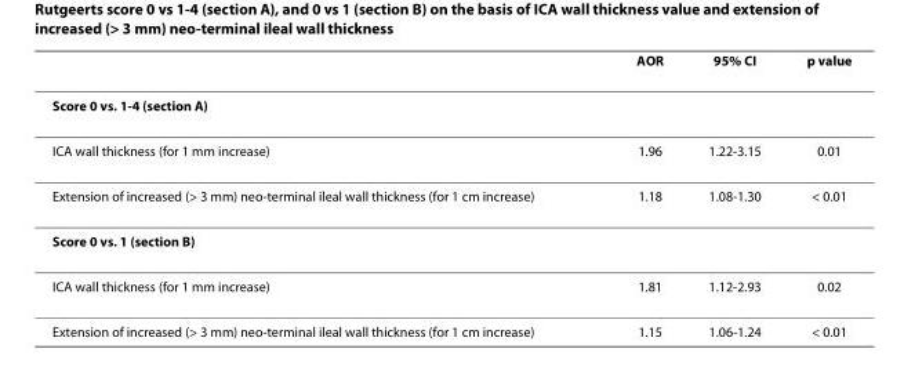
<table><thead><tr><td></td><td>AOR</td><td>95% CI</td><td>p value</td></tr></thead><tbody><tr><td colspan="4">Score 0 vs. 1-4 (section A)</td></tr><tr><td>ICA wall thickness (for 1 mm increase)</td><td>1.96</td><td>1.22-3.15</td><td>0.01</td></tr><tr><td>Extension of increased (&gt; 3 mm) neo-terminal ileal wall thickness (for 1 cm increase)</td><td>1.18</td><td>1.08-1.30</td><td>&lt; 0.01</td></tr><tr><td colspan="4">Score 0 vs. 1 (section B)</td></tr><tr><td>ICA wall thickness (for 1 mm increase)</td><td>1.81</td><td>1.12-2.93</td><td>0.02</td></tr><tr><td>Extension of increased (&gt; 3 mm) neo-terminal ileal wall thickness (for 1 cm increase)</td><td>1.15</td><td>1.06-1.24</td><td>&lt; 0.01</td></tr></tbody></table>